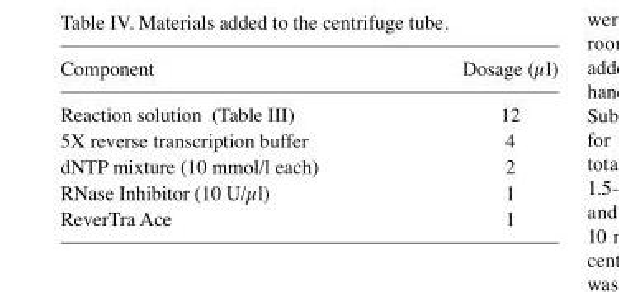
<table><thead><tr><td>Component</td><td>Dosage (µl)</td></tr></thead><tbody><tr><td>Reaction solution (Table III)</td><td>12</td></tr><tr><td>5X reverse transcription buffer</td><td>4</td></tr><tr><td>dNTP mixture (10 mmol/l each)</td><td>2</td></tr><tr><td>RNase Inhibitor (10 U/µl)</td><td>1</td></tr><tr><td>ReverTra Ace</td><td>1</td></tr></tbody></table>